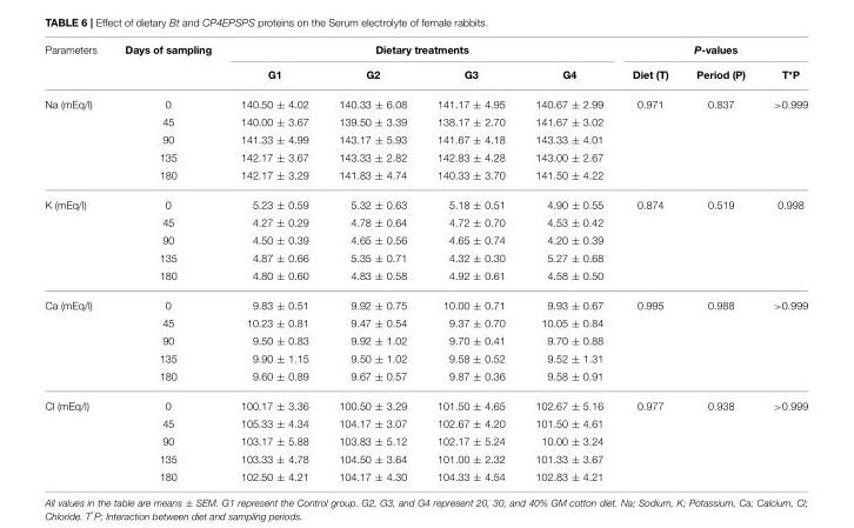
<table><thead><tr><td rowspan="2">Parameters</td><td rowspan="2">Days of sampling</td><td colspan="4">Dietary treatments</td><td colspan="3">P-values</td></tr><tr><td>G1</td><td>G2</td><td>G3</td><td>G4</td><td>Diet (T)</td><td>Period (P)</td><td>T*P</td></tr></thead><tbody><tr><td rowspan="5">Na (mEq/l)</td><td>0</td><td>140.50 ± 4.02</td><td>140.33 ± 6.08</td><td>141.17 ± 4.95</td><td>140.67 ± 2.99</td><td>0.971</td><td>0.837</td><td>&gt;0.999</td></tr><tr><td>45</td><td>140.00 ± 3.67</td><td>139.50 ± 3.39</td><td>138.17 ± 2.70</td><td>141.67 ± 3.02</td><td></td><td></td><td></td></tr><tr><td>90</td><td>141.33 ± 4.99</td><td>143.17 ± 5.93</td><td>141.67 ± 4.18</td><td>143.33 ± 4.01</td><td></td><td></td><td></td></tr><tr><td>135</td><td>142.17 ± 3.67</td><td>143.33 ± 2.82</td><td>142.83 ± 4.28</td><td>143.00 ± 2.67</td><td></td><td></td><td></td></tr><tr><td>180</td><td>142.17 ± 3.29</td><td>141.83 ± 4.74</td><td>140.33 ± 3.70</td><td>141.50 ± 4.22</td><td></td><td></td><td></td></tr><tr><td rowspan="5">K (mEq/l)</td><td>0</td><td>5.23 ± 0.59</td><td>5.32 ± 0.63</td><td>5.18 ± 0.51</td><td>4.90 ± 0.55</td><td>0.874</td><td>0.519</td><td>0.998</td></tr><tr><td>45</td><td>4.27 ± 0.29</td><td>4.78 ± 0.64</td><td>4.72 ± 0.70</td><td>4.53 ± 0.42</td><td></td><td></td><td></td></tr><tr><td>90</td><td>4.50 ± 0.39</td><td>4.65 ± 0.56</td><td>4.65 ± 0.74</td><td>4.20 ± 0.39</td><td></td><td></td><td></td></tr><tr><td>135</td><td>4.87 ± 0.66</td><td>5.35 ± 0.71</td><td>4.32 ± 0.30</td><td>5.27 ± 0.68</td><td></td><td></td><td></td></tr><tr><td>180</td><td>4.80 ± 0.60</td><td>4.83 ± 0.58</td><td>4.92 ± 0.61</td><td>4.58 ± 0.50</td><td></td><td></td><td></td></tr><tr><td rowspan="5">Ca (mEq/l)</td><td>0</td><td>9.83 ± 0.51</td><td>9.92 ± 0.75</td><td>10.00 ± 0.71</td><td>9.93 ± 0.67</td><td>0.995</td><td>0.988</td><td>&gt;0.999</td></tr><tr><td>45</td><td>10.23 ± 0.81</td><td>9.47 ± 0.54</td><td>9.37 ± 0.70</td><td>10.05 ± 0.84</td><td></td><td></td><td></td></tr><tr><td>90</td><td>9.50 ± 0.83</td><td>9.92 ± 1.02</td><td>9.70 ± 0.41</td><td>9.70 ± 0.88</td><td></td><td></td><td></td></tr><tr><td>135</td><td>9.90 ± 1.15</td><td>9.50 ± 1.02</td><td>9.58 ± 0.52</td><td>9.52 ± 1.31</td><td></td><td></td><td></td></tr><tr><td>180</td><td>9.60 ± 0.89</td><td>9.67 ± 0.57</td><td>9.87 ± 0.36</td><td>9.58 ± 0.91</td><td></td><td></td><td></td></tr><tr><td rowspan="5">Cl (mEq/l)</td><td>0</td><td>100.17 ± 3.36</td><td>100.50 ± 3.29</td><td>101.50 ± 4.65</td><td>102.67 ± 5.16</td><td>0.977</td><td>0.938</td><td>&gt;0.999</td></tr><tr><td>45</td><td>105.33 ± 4.34</td><td>104.17 ± 3.07</td><td>102.67 ± 4.20</td><td>101.50 ± 4.61</td><td></td><td></td><td></td></tr><tr><td>90</td><td>103.17 ± 5.88</td><td>103.83 ± 5.12</td><td>102.17 ± 5.24</td><td>10.00 ± 3.24</td><td></td><td></td><td></td></tr><tr><td>135</td><td>103.33 ± 4.78</td><td>104.50 ± 3.64</td><td>101.00 ± 2.32</td><td>101.33 ± 3.67</td><td></td><td></td><td></td></tr><tr><td>180</td><td>102.50 ± 4.21</td><td>104.17 ± 4.30</td><td>104.33 ± 4.54</td><td>102.83 ± 4.21</td><td></td><td></td><td></td></tr></tbody></table>